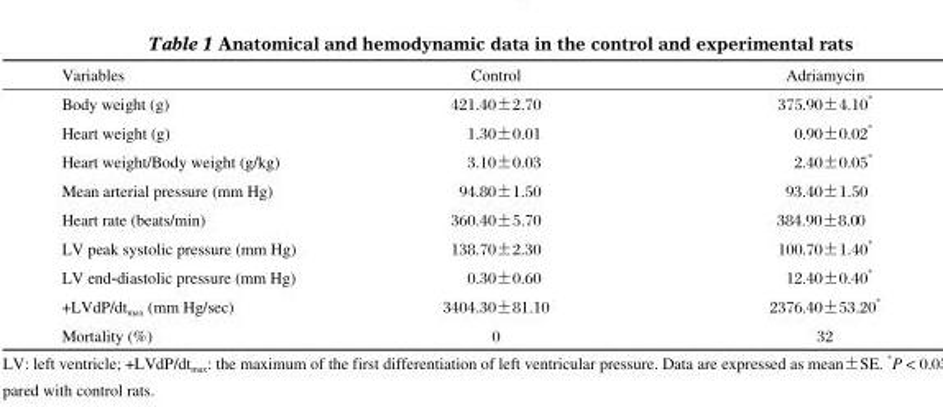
<table><thead><tr><td>Variables</td><td>Control</td><td>Adriamycin</td></tr></thead><tbody><tr><td>Body weight (g)</td><td>421.40±2.70</td><td>375.90±4.10 *</td></tr><tr><td>Heart weight (g)</td><td>001.30±0.01</td><td>000.90±0.02 *</td></tr><tr><td>Heart weight/Body weight (g/kg)</td><td>003.10±0.03</td><td>002.40±0.05 *</td></tr><tr><td>Mean arterial pressure (mm Hg)</td><td>094.80±1.50</td><td>*93.40±1.50</td></tr><tr><td>Heart rate (beats/min)</td><td>360.40±5.70</td><td>384.90±8.000</td></tr><tr><td>LV peak systolic pressure (mm Hg)</td><td>138.70±2.30</td><td>100.70±1.40 *</td></tr><tr><td>LV end-diastolic pressure (mm Hg)</td><td>000.30±0.60</td><td>012.40±0.40 *</td></tr><tr><td>+LVdP/dt<sub>max</sub> (mm Hg/sec)</td><td>3404.30±81.10</td><td>2376.40±53.20 *</td></tr><tr><td>Mortality (%)</td><td>0</td><td>32</td></tr></tbody></table>